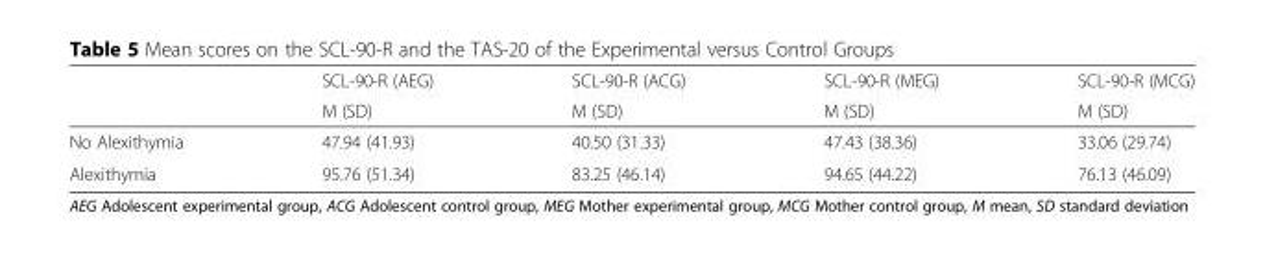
<table><thead><tr><td rowspan="2"></td><td rowspan="2">SCL-90-R (AEG) M (SD)</td><td rowspan="2">SCL-90-R (ACG) M (SD)</td><td rowspan="2">SCL-90-R (MEG) M (SD)</td><td rowspan="2">SCL-90-R (MCG) M (SD)</td></tr><tr></tr></thead><tbody><tr><td>No Alexithymia</td><td>47.94 (41.93)</td><td>40.50 (31.33)</td><td>47.43 (38.36)</td><td>33.06 (29.74)</td></tr><tr><td>Alexithymia</td><td>95.76 (51.34)</td><td>83.25 (46.14)</td><td>94.65 (44.22)</td><td>76.13 (46.09)</td></tr></tbody></table>